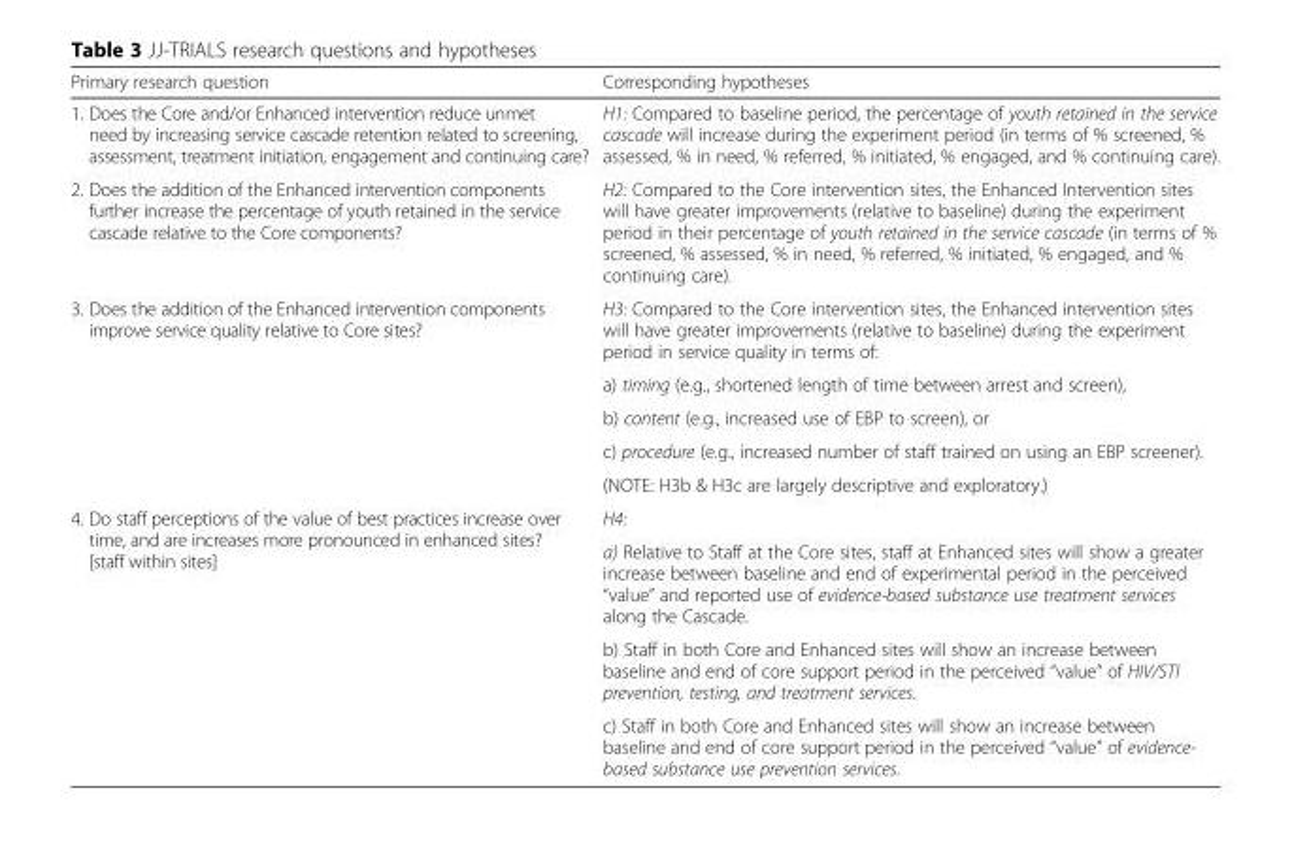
<table><thead><tr><td>Primary research question</td><td>Corresponding hypotheses</td></tr></thead><tbody><tr><td>1. Does the Core and/or Enhanced intervention reduce unmet need by increasing service cascade retention related to screening, assessment, treatment initiation, engagement and continuing care?</td><td>H1: Compared to baseline period, the percentage of youth retained in the service cascade will increase during the experiment period (in terms of % screened, % assessed, % in need, % referred, % initiated, % engaged, and % continuing care).</td></tr><tr><td>2. Does the addition of the Enhanced intervention components further increase the percentage of youth retained in the service cascade relative to the Core components?</td><td>H2: Compared to the Core intervention sites, the Enhanced Intervention sites will have greater improvements (relative to baseline) during the experiment period in their percentage of youth retained in the service cascade (in terms of % screened, % assessed, % in need, % referred, % initiated, % engaged, and % continuing care).</td></tr><tr><td rowspan="5">3. Does the addition of the Enhanced intervention components improve service quality relative to Core sites?</td><td>H3: Compared to the Core intervention sites, the Enhanced intervention sites will have greater improvements (relative to baseline) during the experiment period in service quality in terms of:</td></tr><tr><td>a) timing (e.g., shortened length of time between arrest and screen),</td></tr><tr><td>b) content (e.g., increased use of EBP to screen), or</td></tr><tr><td>c) procedure (e.g., increased number of staff trained on using an EBP screener).</td></tr><tr><td>(NOTE: H3b &amp; H3c are largely descriptive and exploratory.)</td></tr><tr><td rowspan="4">4. Do staff perceptions of the value of best practices increase over time, and are increases more pronounced in enhanced sites? [staff within sites]</td><td>H4:</td></tr><tr><td>a) Relative to Staff at the Core sites, staff at Enhanced sites will show a greater increase between baseline and end of experimental period in the perceived “value” and reported use of evidence-based substance use treatment services along the Cascade.</td></tr><tr><td>b) Staff in both Core and Enhanced sites will show an increase between baseline and end of core support period in the perceived “value” of HIV/STI prevention, testing, and treatment services.</td></tr><tr><td>c) Staff in both Core and Enhanced sites will show an increase between baseline and end of core support period in the perceived “value” of evidence- based substance use prevention services.</td></tr></tbody></table>